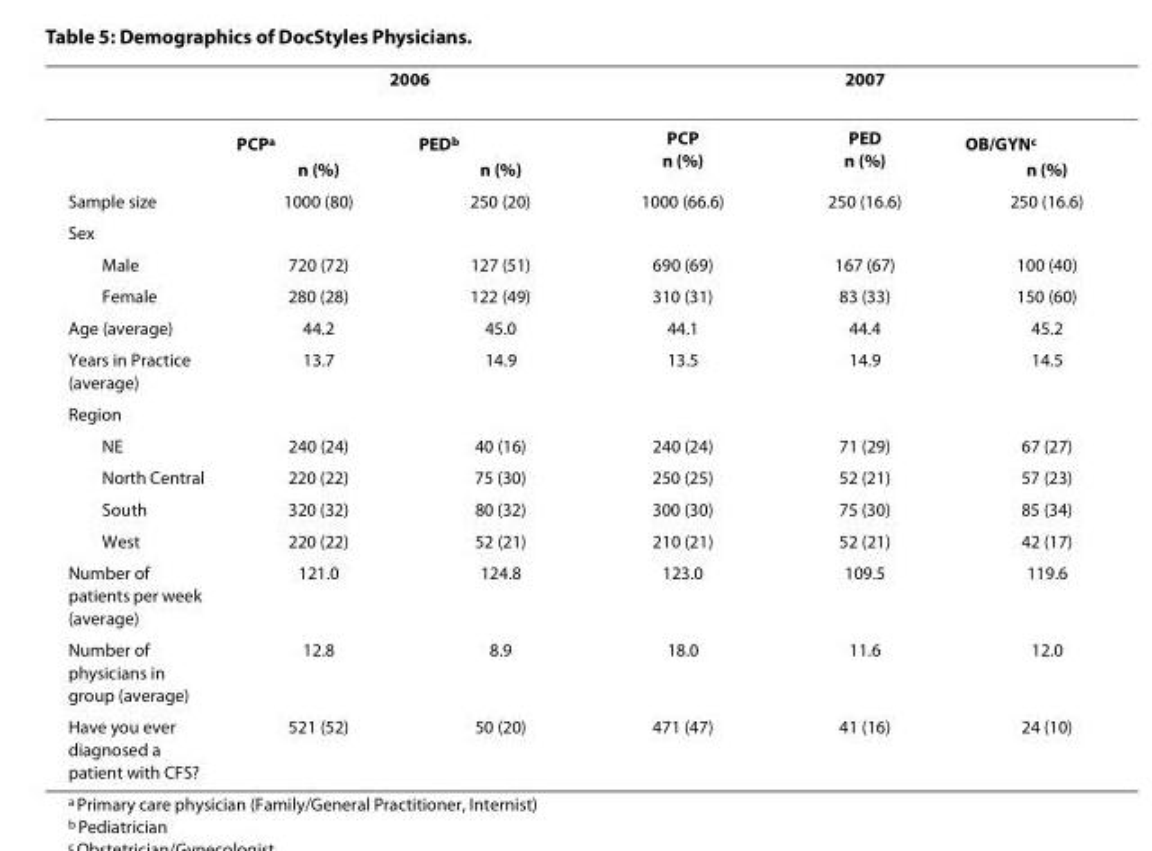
<table><thead><tr><td rowspan="2"></td><td colspan="2">2006</td><td colspan="3">2007</td></tr><tr><td>PCP<sup>a</sup> n (%)</td><td>PED<sup>b</sup> n (%)</td><td>PCP n (%)</td><td>PED n (%)</td><td>OB/GYN<sup>c</sup> n (%)</td></tr></thead><tbody><tr><td>Sample size</td><td>1000 (80)</td><td>250 (20)</td><td>1000 (66.6)</td><td>250 (16.6)</td><td>250 (16.6)</td></tr><tr><td colspan="6">Sex</td></tr><tr><td>Male</td><td>720 (72)</td><td>127 (51)</td><td>690 (69)</td><td>167 (67)</td><td>100 (40)</td></tr><tr><td>Female</td><td>280 (28)</td><td>122 (49)</td><td>310 (31)</td><td>83 (33)</td><td>150 (60)</td></tr><tr><td>Age (average)</td><td>44.2</td><td>45.0</td><td>44.1</td><td>44.4</td><td>45.2</td></tr><tr><td>Years in Practice (average)</td><td>13.7</td><td>14.9</td><td>13.5</td><td>14.9</td><td>14.5</td></tr><tr><td colspan="6">Region</td></tr><tr><td>NE</td><td>240 (24)</td><td>40 (16)</td><td>240 (24)</td><td>71 (29)</td><td>67 (27)</td></tr><tr><td>North Central</td><td>220 (22)</td><td>75 (30)</td><td>250 (25)</td><td>52 (21)</td><td>57 (23)</td></tr><tr><td>South</td><td>320 (32)</td><td>80 (32)</td><td>300 (30)</td><td>75 (30)</td><td>85 (34)</td></tr><tr><td>West</td><td>220 (22)</td><td>52 (21)</td><td>210 (21)</td><td>52 (21)</td><td>42 (17)</td></tr><tr><td>Number of patients per week (average)</td><td>121.0</td><td>124.8</td><td>123.0</td><td>109.5</td><td>119.6</td></tr><tr><td>Number of physicians in group (average)</td><td>12.8</td><td>8.9</td><td>18.0</td><td>11.6</td><td>12.0</td></tr><tr><td>Have you ever diagnosed a patient with CFS?</td><td>521 (52)</td><td>50 (20)</td><td>471 (47)</td><td>41 (16)</td><td>24 (10)</td></tr></tbody></table>